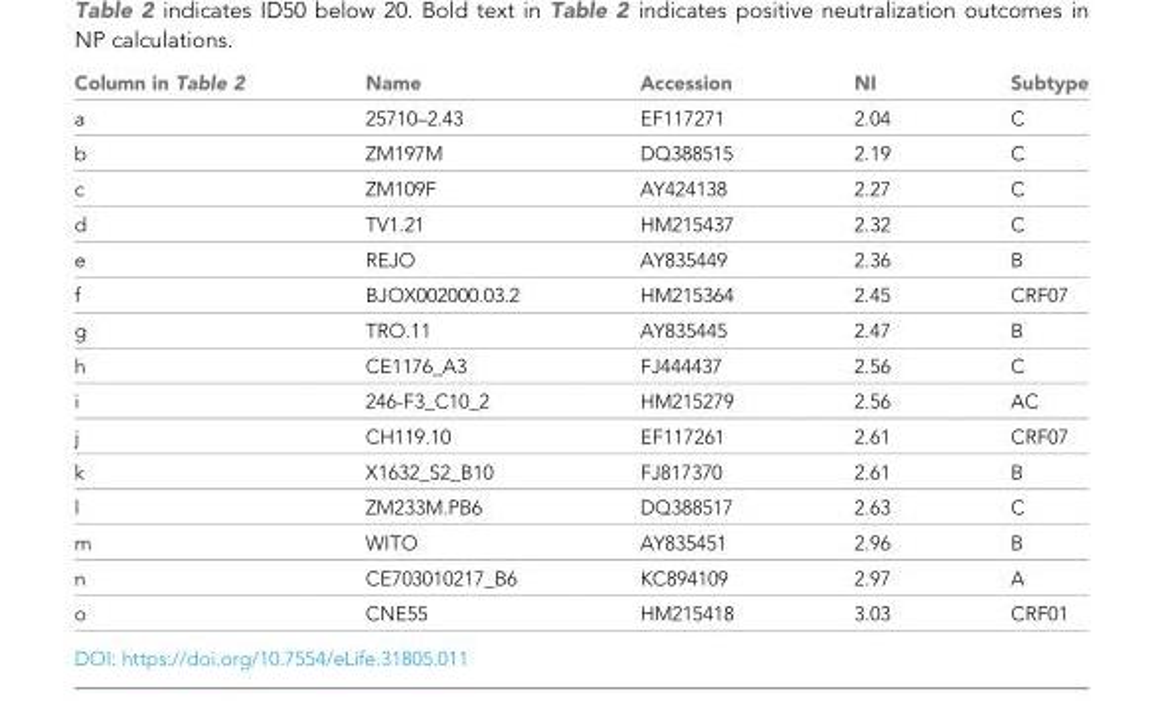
<table><thead><tr><td>Column in Table 2</td><td>Name</td><td>Accession</td><td>NI</td><td>Subtype</td></tr></thead><tbody><tr><td>a</td><td>25710–2.43</td><td>EF117271</td><td>2.04</td><td>C</td></tr><tr><td>b</td><td>ZM197M</td><td>DQ388515</td><td>2.19</td><td>C</td></tr><tr><td>c</td><td>ZM109F</td><td>AY424138</td><td>2.27</td><td>C</td></tr><tr><td>d</td><td>TV1.21</td><td>HM215437</td><td>2.32</td><td>C</td></tr><tr><td>e</td><td>REJO</td><td>AY835449</td><td>2.36</td><td>B</td></tr><tr><td>f</td><td>BJOX002000.03.2</td><td>HM215364</td><td>2.45</td><td>CRF07</td></tr><tr><td>g</td><td>TRO.11</td><td>AY835445</td><td>2.47</td><td>B</td></tr><tr><td>h</td><td>CE1176_A3</td><td>FJ444437</td><td>2.56</td><td>C</td></tr><tr><td>i</td><td>246-F3_C10_2</td><td>HM215279</td><td>2.56</td><td>AC</td></tr><tr><td>j</td><td>CH119.10</td><td>EF117261</td><td>2.61</td><td>CRF07</td></tr><tr><td>k</td><td>X1632_S2_B10</td><td>FJ817370</td><td>2.61</td><td>B</td></tr><tr><td>l</td><td>ZM233M.PB6</td><td>DQ388517</td><td>2.63</td><td>C</td></tr><tr><td>m</td><td>WITO</td><td>AY835451</td><td>2.96</td><td>B</td></tr><tr><td>n</td><td>CE703010217_B6</td><td>KC894109</td><td>2.97</td><td>A</td></tr><tr><td>o</td><td>CNE55</td><td>HM215418</td><td>3.03</td><td>CRF01</td></tr></tbody></table>